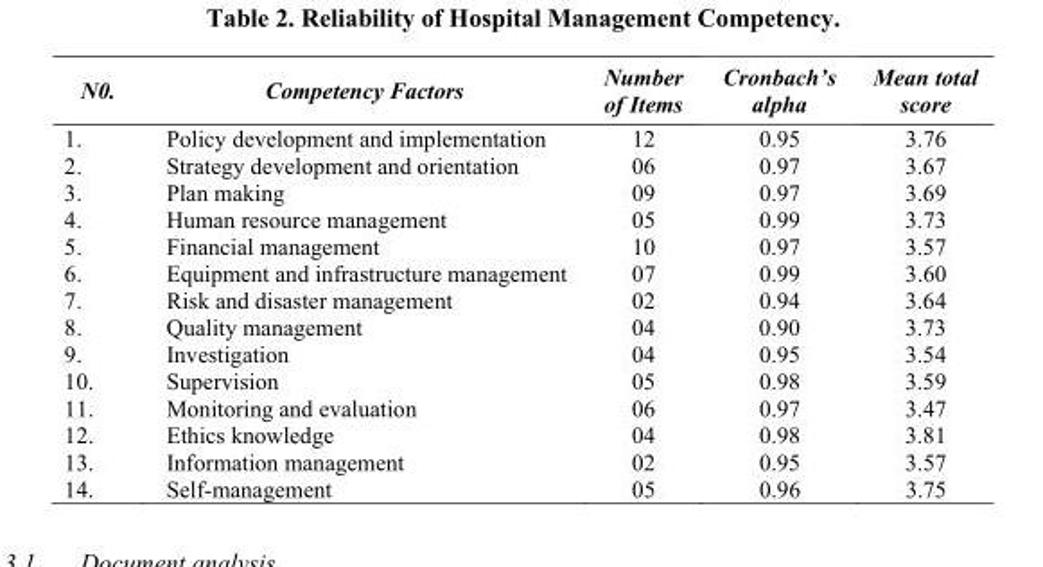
<table><thead><tr><td>N0.</td><td>Competency Factors</td><td>Number of Items</td><td>Cronbach’s alpha</td><td>Mean total score</td></tr></thead><tbody><tr><td>1.</td><td>Policy development and implementation</td><td>12</td><td>0.95</td><td>3.76</td></tr><tr><td>2.</td><td>Strategy development and orientation</td><td>06</td><td>0.97</td><td>3.67</td></tr><tr><td>3.</td><td>Plan making</td><td>09</td><td>0.97</td><td>3.69</td></tr><tr><td>4.</td><td>Human resource management</td><td>05</td><td>0.99</td><td>3.73</td></tr><tr><td>5.</td><td>Financial management</td><td>10</td><td>0.97</td><td>3.57</td></tr><tr><td>6.</td><td>Equipment and infrastructure management</td><td>07</td><td>0.99</td><td>3.60</td></tr><tr><td>7.</td><td>Risk and disaster management</td><td>02</td><td>0.94</td><td>3.64</td></tr><tr><td>8.</td><td>Quality management</td><td>04</td><td>0.90</td><td>3.73</td></tr><tr><td>9.</td><td>Investigation</td><td>04</td><td>0.95</td><td>3.54</td></tr><tr><td>10.</td><td>Supervision</td><td>05</td><td>0.98</td><td>3.59</td></tr><tr><td>11.</td><td>Monitoring and evaluation</td><td>06</td><td>0.97</td><td>3.47</td></tr><tr><td>12.</td><td>Ethics knowledge</td><td>04</td><td>0.98</td><td>3.81</td></tr><tr><td>13.</td><td>Information management</td><td>02</td><td>0.95</td><td>3.57</td></tr><tr><td>14.</td><td>Self-management</td><td>05</td><td>0.96</td><td>3.75</td></tr></tbody></table>